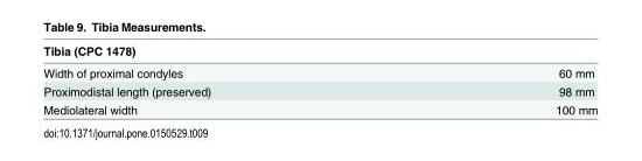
<table><thead><tr><td>Tibia (CPC 1478)</td><td></td></tr></thead><tbody><tr><td>Width of proximal condyles</td><td>60 mm</td></tr><tr><td>Proximodistal length (preserved)</td><td>98 mm</td></tr><tr><td>Mediolateral width</td><td>100 mm</td></tr></tbody></table>